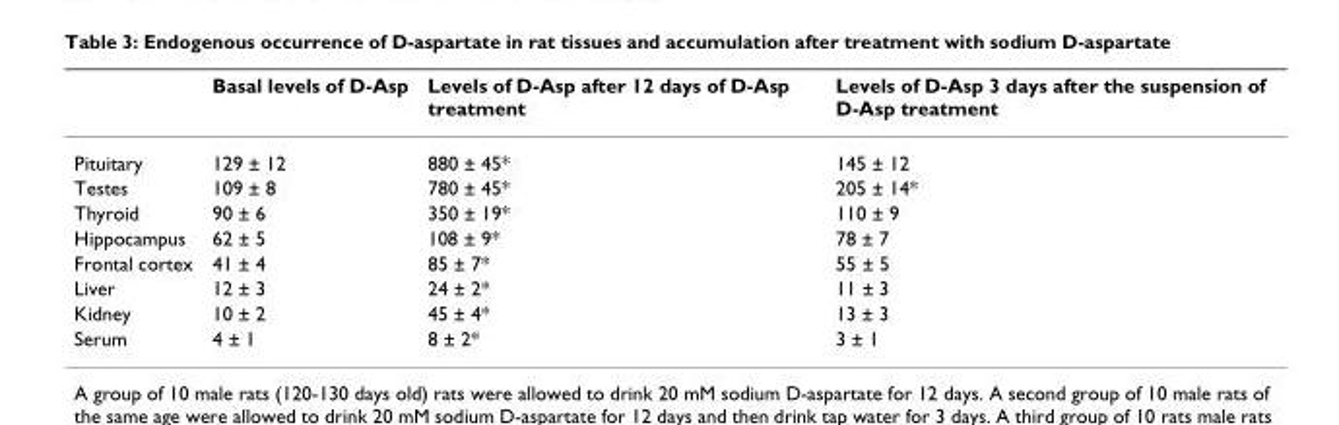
<table><thead><tr><td></td><td>Basal levels of D-Asp</td><td>Levels of D-Asp after 12 days of D-Asp treatment</td><td>Levels of D-Asp 3 days after the suspension of D-Asp treatment</td></tr></thead><tbody><tr><td>Pituitary</td><td>129 ± 12</td><td>880 ± 45*</td><td>145 ± 12</td></tr><tr><td>Testes</td><td>109 ± 8</td><td>780 ± 45*</td><td>205 ± 14*</td></tr><tr><td>Thyroid</td><td>90 ± 6</td><td>350 ± 19*</td><td>110 ± 9</td></tr><tr><td>Hippocampus</td><td>62 ± 5</td><td>108 ± 9*</td><td>78 ± 7</td></tr><tr><td>Frontal cortex</td><td>41 ± 4</td><td>85 ± 7*</td><td>55 ± 5</td></tr><tr><td>Liver</td><td>12 ± 3</td><td>24 ± 2*</td><td>11 ± 3</td></tr><tr><td>Kidney</td><td>10 ± 2</td><td>45 ± 4*</td><td>13 ± 3</td></tr><tr><td>Serum</td><td>4 ± 1</td><td>8 ± 2*</td><td>3 ± 1</td></tr></tbody></table>